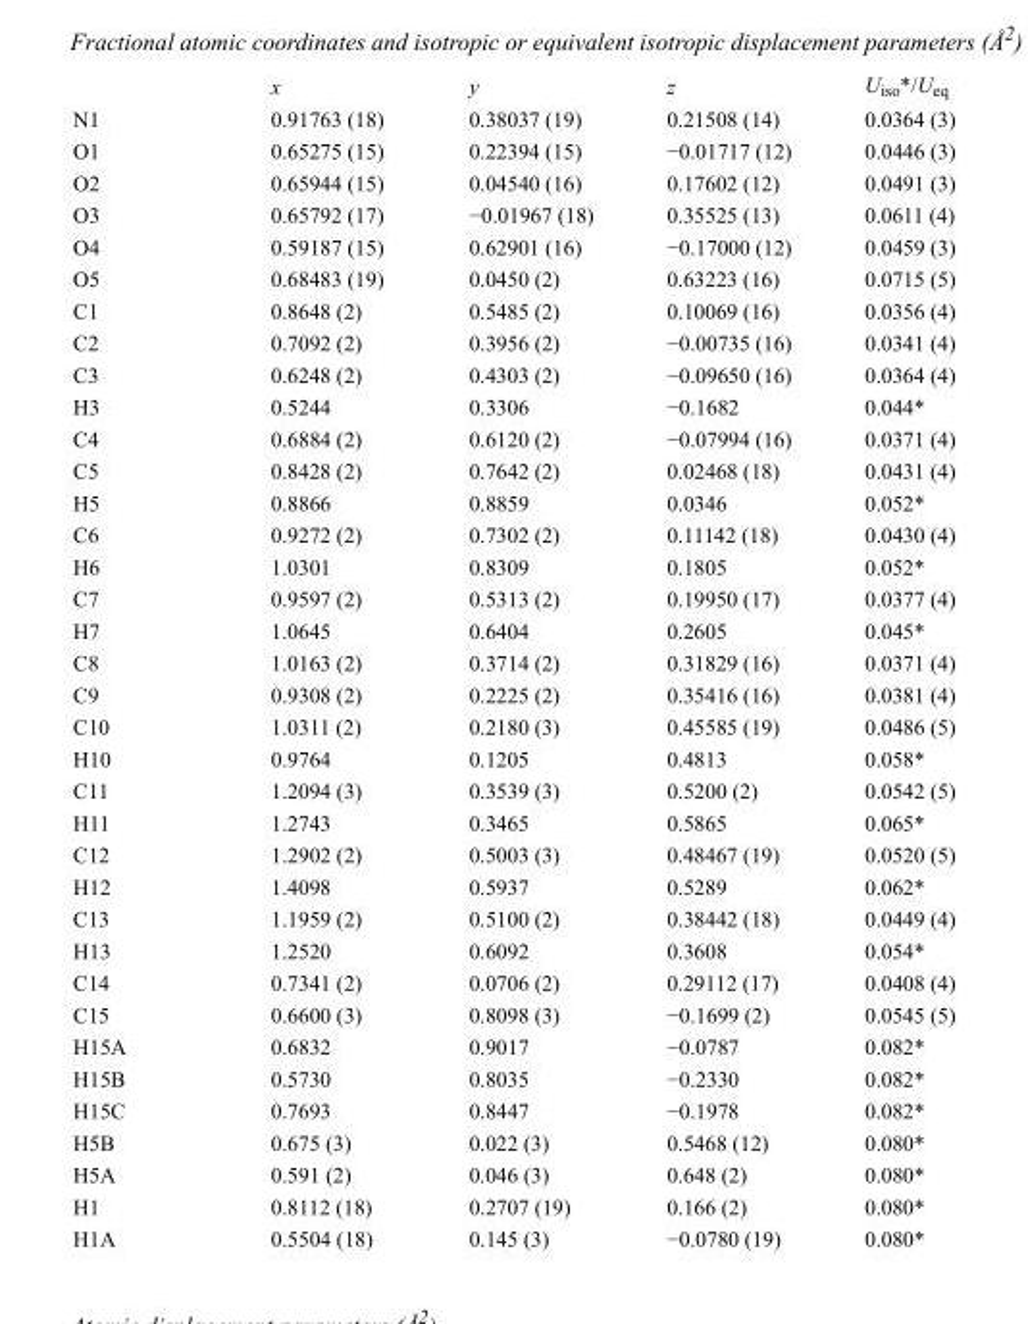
<table><thead><tr><td></td><td>x</td><td>y</td><td>z</td><td>U<sub>iso</sub>*/U<sub>eq</sub></td></tr></thead><tbody><tr><td>N1</td><td>0.91763 (18)</td><td>0.38037 (19)</td><td>0.21508 (14)</td><td>0.0364 (3)</td></tr><tr><td>O1</td><td>0.65275 (15)</td><td>0.22394 (15)</td><td>−0.01717 (12)</td><td>0.0446 (3)</td></tr><tr><td>O2</td><td>0.65944 (15)</td><td>0.04540 (16)</td><td>0.17602 (12)</td><td>0.0491 (3)</td></tr><tr><td>O3</td><td>0.65792 (17)</td><td>−0.01967 (18)</td><td>0.35525 (13)</td><td>0.0611 (4)</td></tr><tr><td>O4</td><td>0.59187 (15)</td><td>0.62901 (16)</td><td>−0.17000 (12)</td><td>0.0459 (3)</td></tr><tr><td>O5</td><td>0.68483 (19)</td><td>0.0450 (2)</td><td>0.63223 (16)</td><td>0.0715 (5)</td></tr><tr><td>C1</td><td>0.8648 (2)</td><td>0.5485 (2)</td><td>0.10069 (16)</td><td>0.0356 (4)</td></tr><tr><td>C2</td><td>0.7092 (2)</td><td>0.3956 (2)</td><td>−0.00735 (16)</td><td>0.0341 (4)</td></tr><tr><td>C3</td><td>0.6248 (2)</td><td>0.4303 (2)</td><td>−0.09650 (16)</td><td>0.0364 (4)</td></tr><tr><td>H3</td><td>0.5244</td><td>0.3306</td><td>−0.1682</td><td>0.044*</td></tr><tr><td>C4</td><td>0.6884 (2)</td><td>0.6120 (2)</td><td>−0.07994 (16)</td><td>0.0371 (4)</td></tr><tr><td>C5</td><td>0.8428 (2)</td><td>0.7642 (2)</td><td>0.02468 (18)</td><td>0.0431 (4)</td></tr><tr><td>H5</td><td>0.8866</td><td>0.8859</td><td>0.0346</td><td>0.052*</td></tr><tr><td>C6</td><td>0.9272 (2)</td><td>0.7302 (2)</td><td>0.11142 (18)</td><td>0.0430 (4)</td></tr><tr><td>H6</td><td>1.0301</td><td>0.8309</td><td>0.1805</td><td>0.052*</td></tr><tr><td>C7</td><td>0.9597 (2)</td><td>0.5313 (2)</td><td>0.19950 (17)</td><td>0.0377 (4)</td></tr><tr><td>H7</td><td>1.0645</td><td>0.6404</td><td>0.2605</td><td>0.045*</td></tr><tr><td>C8</td><td>1.0163 (2)</td><td>0.3714 (2)</td><td>0.31829 (16)</td><td>0.0371 (4)</td></tr><tr><td>C9</td><td>0.9308 (2)</td><td>0.2225 (2)</td><td>0.35416 (16)</td><td>0.0381 (4)</td></tr><tr><td>C10</td><td>1.0311 (2)</td><td>0.2180 (3)</td><td>0.45585 (19)</td><td>0.0486 (5)</td></tr><tr><td>H10</td><td>0.9764</td><td>0.1205</td><td>0.4813</td><td>0.058*</td></tr><tr><td>C11</td><td>1.2094 (3)</td><td>0.3539 (3)</td><td>0.5200 (2)</td><td>0.0542 (5)</td></tr><tr><td>H11</td><td>1.2743</td><td>0.3465</td><td>0.5865</td><td>0.065*</td></tr><tr><td>C12</td><td>1.2902 (2)</td><td>0.5003 (3)</td><td>0.48467 (19)</td><td>0.0520 (5)</td></tr><tr><td>H12</td><td>1.4098</td><td>0.5937</td><td>0.5289</td><td>0.062*</td></tr><tr><td>C13</td><td>1.1959 (2)</td><td>0.5100 (2)</td><td>0.38442 (18)</td><td>0.0449 (4)</td></tr><tr><td>H13</td><td>1.2520</td><td>0.6092</td><td>0.3608</td><td>0.054*</td></tr><tr><td>C14</td><td>0.7341 (2)</td><td>0.0706 (2)</td><td>0.29112 (17)</td><td>0.0408 (4)</td></tr><tr><td>C15</td><td>0.6600 (3)</td><td>0.8098 (3)</td><td>−0.1699 (2)</td><td>0.0545 (5)</td></tr><tr><td>H15A</td><td>0.6832</td><td>0.9017</td><td>−0.0787</td><td>0.082*</td></tr><tr><td>H15B</td><td>0.5730</td><td>0.8035</td><td>−0.2330</td><td>0.082*</td></tr><tr><td>H15C</td><td>0.7693</td><td>0.8447</td><td>−0.1978</td><td>0.082*</td></tr><tr><td>H5B</td><td>0.675 (3)</td><td>0.022 (3)</td><td>0.5468 (12)</td><td>0.080*</td></tr><tr><td>H5A</td><td>0.591 (2)</td><td>0.046 (3)</td><td>0.648 (2)</td><td>0.080*</td></tr><tr><td>H1</td><td>0.8112 (18)</td><td>0.2707 (19)</td><td>0.166 (2)</td><td>0.080*</td></tr><tr><td>H1A</td><td>0.5504 (18)</td><td>0.145 (3)</td><td>−0.0780 (19)</td><td>0.080*</td></tr></tbody></table>